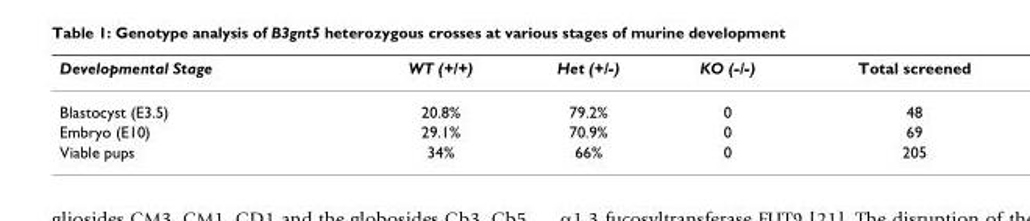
<table><thead><tr><td>Developmental Stage</td><td>WT (+/+)</td><td>Het (+/-)</td><td>KO (-/-)</td><td>Total screened</td></tr></thead><tbody><tr><td>Blastocyst (E3.5)</td><td>20.8%</td><td>79.2%</td><td>0</td><td>48</td></tr><tr><td>Embryo (E10)</td><td>29.1%</td><td>70.9%</td><td>0</td><td>69</td></tr><tr><td>Viable pups</td><td>34%</td><td>66%</td><td>0</td><td>205</td></tr></tbody></table>